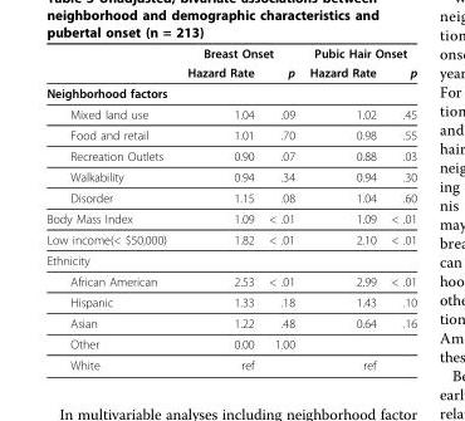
<table><thead><tr><td rowspan="2"></td><td colspan="2">Breast Onset</td><td colspan="2">Pubic Hair Onset</td></tr><tr><td>Hazard Rate</td><td>p</td><td>Hazard Rate</td><td>p</td></tr></thead><tbody><tr><td colspan="5">Neighborhood factors</td></tr><tr><td>Mixed land use</td><td>1.04</td><td>.09</td><td>1.02</td><td>.45</td></tr><tr><td>Food and retail</td><td>1.01</td><td>.70</td><td>0.98</td><td>.55</td></tr><tr><td>Recreation Outlets</td><td>0.90</td><td>.07</td><td>0.88</td><td>.03</td></tr><tr><td>Walkability</td><td>0.94</td><td>.34</td><td>0.94</td><td>.30</td></tr><tr><td>Disorder</td><td>1.15</td><td>.08</td><td>1.04</td><td>.60</td></tr><tr><td>Body Mass Index</td><td>1.09</td><td>&lt; .01</td><td>1.09</td><td>&lt; .01</td></tr><tr><td>Low income(&lt; $50,000)</td><td>1.82</td><td>&lt; .01</td><td>2.10</td><td>&lt; .01</td></tr><tr><td colspan="5">Ethnicity</td></tr><tr><td>African American</td><td>2.53</td><td>&lt; .01</td><td>2.99</td><td>&lt; .01</td></tr><tr><td>Hispanic</td><td>1.33</td><td>.18</td><td>1.43</td><td>.10</td></tr><tr><td>Asian</td><td>1.22</td><td>.48</td><td>0.64</td><td>.16</td></tr><tr><td>Other</td><td>0.00</td><td>1.00</td><td></td><td></td></tr><tr><td>White</td><td>ref</td><td></td><td>ref</td><td></td></tr></tbody></table>